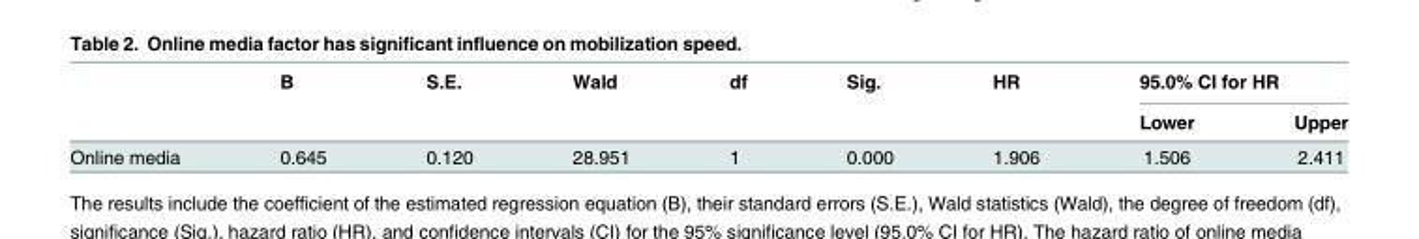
<table><thead><tr><td rowspan="2"></td><td rowspan="2">B</td><td rowspan="2">S.E.</td><td rowspan="2">Wald</td><td rowspan="2">df</td><td rowspan="2">Sig.</td><td rowspan="2">HR</td><td colspan="2">95.0% CI for HR</td></tr><tr><td>Lower</td><td>Upper</td></tr></thead><tbody><tr><td>Online media</td><td>0.645</td><td>0.120</td><td>28.951</td><td>1</td><td>0.000</td><td>1.906</td><td>1.506</td><td>2.411</td></tr></tbody></table>